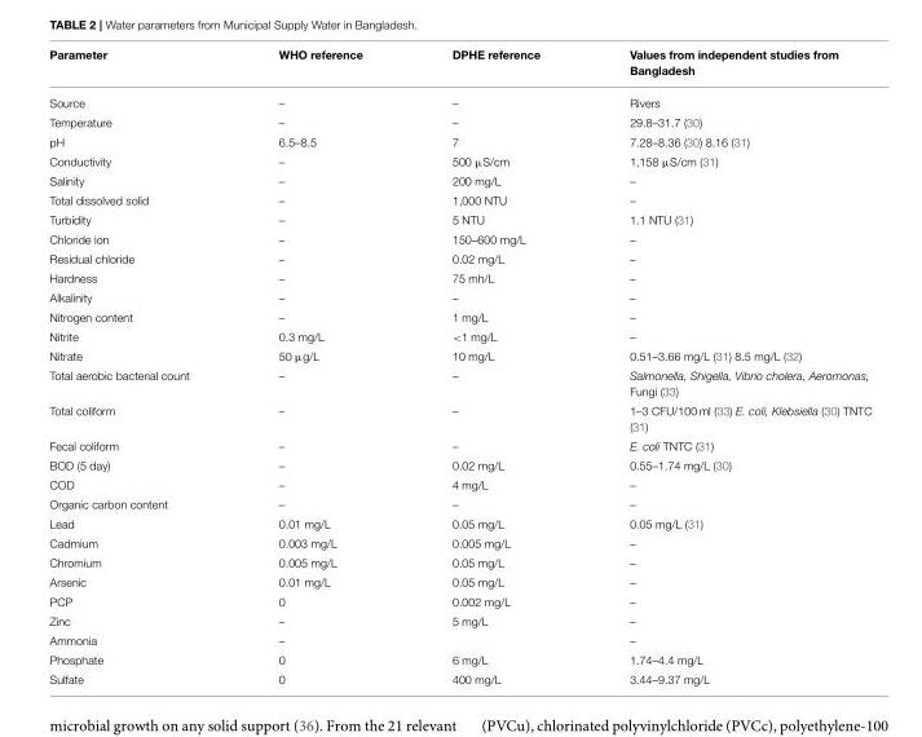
<table><thead><tr><td>Parameter</td><td>WHO reference</td><td>DPHE reference</td><td>Values from independent studies from Bangladesh</td></tr></thead><tbody><tr><td>Source</td><td>–</td><td>–</td><td>Rivers</td></tr><tr><td>Temperature</td><td>–</td><td>–</td><td>29.8–31.7 (30)</td></tr><tr><td>pH</td><td>6.5–8.5</td><td>7</td><td>7.28–8.36 (30) 8.16 (31)</td></tr><tr><td>Conductivity</td><td>–</td><td>500 µS/cm</td><td>1,158 µS/cm (31)</td></tr><tr><td>Salinity</td><td>–</td><td>200 mg/L</td><td>–</td></tr><tr><td>Total dissolved solid</td><td>–</td><td>1,000 NTU</td><td>–</td></tr><tr><td>Turbidity</td><td>–</td><td>5 NTU</td><td>1.1 NTU (31)</td></tr><tr><td>Chloride ion</td><td>–</td><td>150–600 mg/L</td><td>–</td></tr><tr><td>Residual chloride</td><td>–</td><td>0.02 mg/L</td><td>–</td></tr><tr><td>Hardness</td><td>–</td><td>75 mh/L</td><td>–</td></tr><tr><td>Alkalinity</td><td>–</td><td>–</td><td>–</td></tr><tr><td>Nitrogen content</td><td>–</td><td>1 mg/L</td><td>–</td></tr><tr><td>Nitrite</td><td>0.3 mg/L</td><td>&lt;1 mg/L</td><td>–</td></tr><tr><td>Nitrate</td><td>50 µg/L</td><td>10 mg/L</td><td>0.51–3.66 mg/L (31) 8.5 mg/L (32)</td></tr><tr><td>Total aerobic bacterial count</td><td>–</td><td>–</td><td>Salmonella, Shigella, Vibrio cholera, Aeromonas, Fungi (33)</td></tr><tr><td>Total coliform</td><td>–</td><td>–</td><td>1–3 CFU/100 ml (33) E. coli, Klebsiella (30) TNTC (31)</td></tr><tr><td>Fecal coliform</td><td>–</td><td>–</td><td>E. coli TNTC (31)</td></tr><tr><td>BOD (5 day)</td><td>–</td><td>0.02 mg/L</td><td>0.55–1.74 mg/L (30)</td></tr><tr><td>COD</td><td>–</td><td>4 mg/L</td><td>–</td></tr><tr><td>Organic carbon content</td><td>–</td><td>–</td><td>–</td></tr><tr><td>Lead</td><td>0.01 mg/L</td><td>0.05 mg/L</td><td>0.05 mg/L (31)</td></tr><tr><td>Cadmium</td><td>0.003 mg/L</td><td>0.005 mg/L</td><td>–</td></tr><tr><td>Chromium</td><td>0.005 mg/L</td><td>0.05 mg/L</td><td>–</td></tr><tr><td>Arsenic</td><td>0.01 mg/L</td><td>0.05 mg/L</td><td>–</td></tr><tr><td>PCP</td><td>0</td><td>0.002 mg/L</td><td>–</td></tr><tr><td>Zinc</td><td>–</td><td>5 mg/L</td><td>–</td></tr><tr><td>Ammonia</td><td>–</td><td></td><td>–</td></tr><tr><td>Phosphate</td><td>0</td><td>6 mg/L</td><td>1.74–4.4 mg/L</td></tr><tr><td>Sulfate</td><td>0</td><td>400 mg/L</td><td>3.44–9.37 mg/L</td></tr></tbody></table>